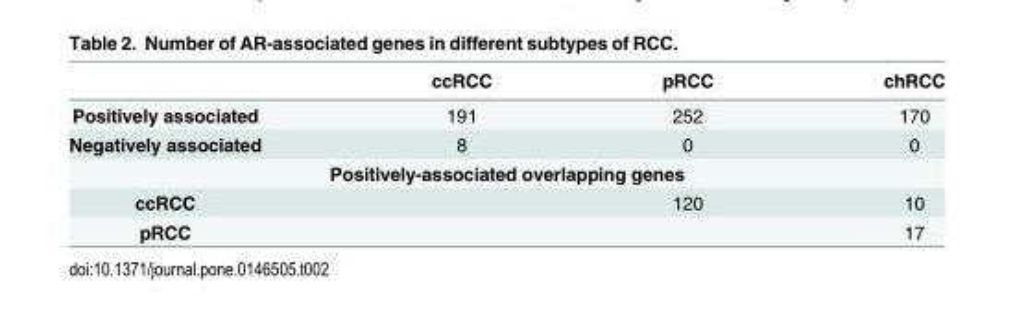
<table><thead><tr><td></td><td>ccRCC</td><td>pRCC</td><td>chRCC</td></tr></thead><tbody><tr><td>Positively associated</td><td>191</td><td>252</td><td>170</td></tr><tr><td>Negatively associated</td><td>8</td><td>0</td><td>0</td></tr><tr><td colspan="4">Positively-associated overlapping genes</td></tr><tr><td>ccRCC</td><td></td><td>120</td><td>10</td></tr><tr><td>pRCC</td><td></td><td></td><td>17</td></tr></tbody></table>